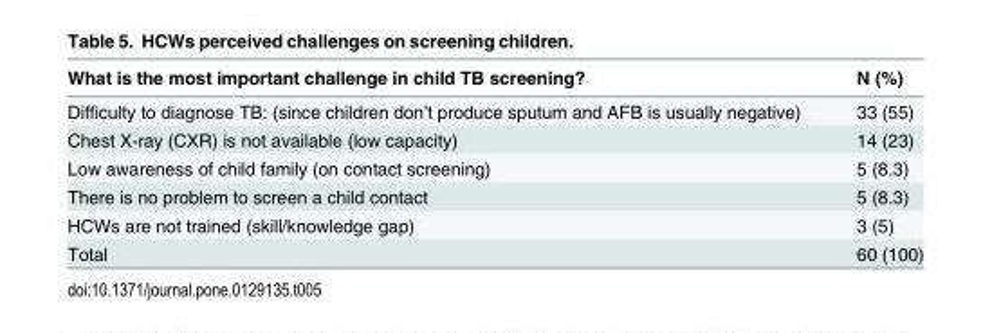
<table><thead><tr><td>What is the most important challenge in child TB screening?</td><td>N (%)</td></tr></thead><tbody><tr><td>Difficulty to diagnose TB: (since children don’t produce sputum and AFB is usually negative)</td><td>33 (55)</td></tr><tr><td>Chest X-ray (CXR) is not available (low capacity)</td><td>14 (23)</td></tr><tr><td>Low awareness of child family (on contact screening)</td><td>5 (8.3)</td></tr><tr><td>There is no problem to screen a child contact</td><td>5 (8.3)</td></tr><tr><td>HCWs are not trained (skill/knowledge gap)</td><td>3 (5)</td></tr><tr><td>Total</td><td>60 (100)</td></tr></tbody></table>